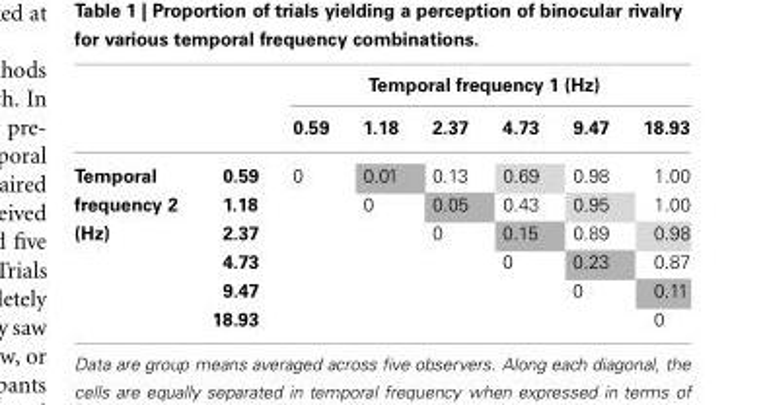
<table><thead><tr><td rowspan="2"></td><td rowspan="2"></td><td colspan="6">Temporal frequency 1 (Hz)</td></tr><tr><td>0.59</td><td>1.18</td><td>2.37</td><td>4.73</td><td>9.47</td><td>18.93</td></tr></thead><tbody><tr><td>Temporal</td><td>0.59</td><td>0</td><td>0.01</td><td>0.13</td><td>0.69</td><td>0.98</td><td>1.00</td></tr><tr><td>frequency 2</td><td>1.18</td><td></td><td>0</td><td>0.05</td><td>0.43</td><td>0.95</td><td>1.00</td></tr><tr><td rowspan="4">(Hz)</td><td>2.37</td><td></td><td></td><td>0</td><td>0.15</td><td>0.89</td><td>0.98</td></tr><tr><td>4.73</td><td></td><td></td><td></td><td>0</td><td>0.23</td><td>0.87</td></tr><tr><td>9.47</td><td></td><td></td><td></td><td></td><td>0</td><td>0.11</td></tr><tr><td>18.93</td><td></td><td></td><td></td><td></td><td></td><td>0</td></tr></tbody></table>